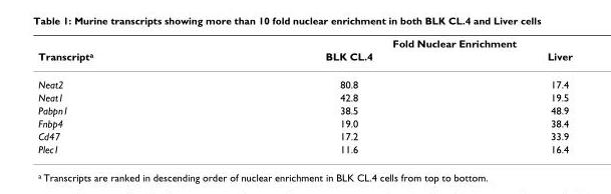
<table><thead><tr><td rowspan="2">Transcripta</td><td colspan="2">Fold Nuclear Enrichment</td></tr><tr><td>BLK CL.4</td><td>Liver</td></tr></thead><tbody><tr><td>Neat2</td><td>80.8</td><td>17.4</td></tr><tr><td>Neat1</td><td>42.8</td><td>19.5</td></tr><tr><td>Pabpn1</td><td>38.5</td><td>48.9</td></tr><tr><td>Fnbp4</td><td>19.0</td><td>38.4</td></tr><tr><td>Cd47</td><td>17.2</td><td>33.9</td></tr><tr><td>Plec1</td><td>11.6</td><td>16.4</td></tr></tbody></table>